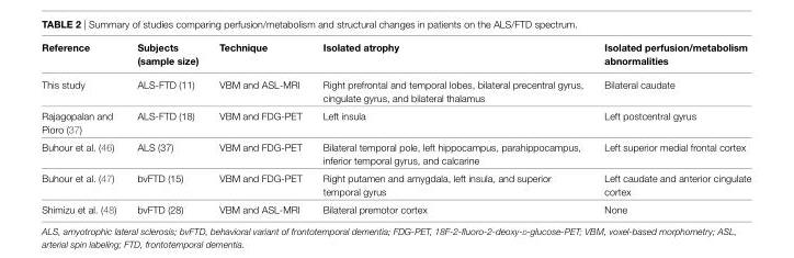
<table><thead><tr><td>reference</td><td>subjects (sample size)</td><td>Technique</td><td>isolated atrophy</td><td>isolated perfusion/metabolism abnormalities</td></tr></thead><tbody><tr><td>This study</td><td>ALS-FTD (11)</td><td>VBM and ASL-MRI</td><td>Right prefrontal and temporal lobes, bilateral precentral gyrus, cingulate gyrus, and bilateral thalamus</td><td>Bilateral caudate</td></tr><tr><td>Rajagopalan and Pioro (37)</td><td>ALS-FTD (18)</td><td>VBM and FDG-PET</td><td>Left insula</td><td>Left postcentral gyrus</td></tr><tr><td>Buhour et al. (46)</td><td>ALS (37)</td><td>VBM and FDG-PET</td><td>Bilateral temporal pole, left hippocampus, parahippocampus, inferior temporal gyrus, and calcarine</td><td>Left superior medial frontal cortex</td></tr><tr><td>Buhour et al. (47)</td><td>bvFTD (15)</td><td>VBM and FDG-PET</td><td>Right putamen and amygdala, left insula, and superior temporal gyrus</td><td>Left caudate and anterior cingulate cortex</td></tr><tr><td>Shimizu et al. (48)</td><td>bvFTD (28)</td><td>VBM and ASL-MRI</td><td>Bilateral premotor cortex</td><td>None</td></tr></tbody></table>